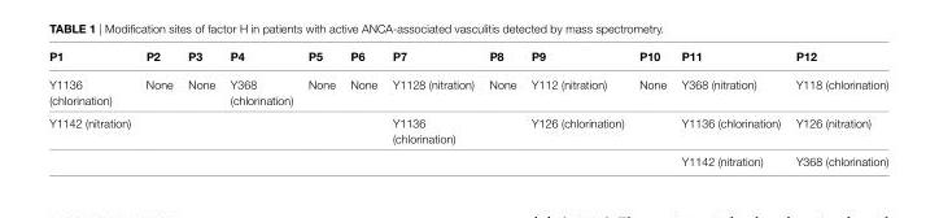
<table><thead><tr><td>P1</td><td>P2</td><td>P3</td><td>P4</td><td>P5</td><td>P6</td><td>P7</td><td>P8</td><td>P9</td><td>P10</td><td>P11</td><td>P12</td></tr></thead><tbody><tr><td>Y1136 (chlorination)</td><td>None</td><td>None</td><td>Y368 (chlorination)</td><td>None</td><td>None</td><td>Y1128 (nitration)</td><td>None</td><td>Y112 (nitration)</td><td>None</td><td>Y368 (nitration)</td><td>Y118 (chlorination)</td></tr><tr><td rowspan="2">Y1142 (nitration)</td><td></td><td></td><td></td><td></td><td></td><td>Y1136 (chlorination)</td><td></td><td>Y126 (chlorination)</td><td></td><td>Y1136 (chlorination)</td><td>Y126 (nitration)</td></tr><tr><td></td><td></td><td></td><td></td><td></td><td></td><td></td><td></td><td></td><td>Y1142 (nitration)</td><td>Y368 (chlorination)</td></tr></tbody></table>